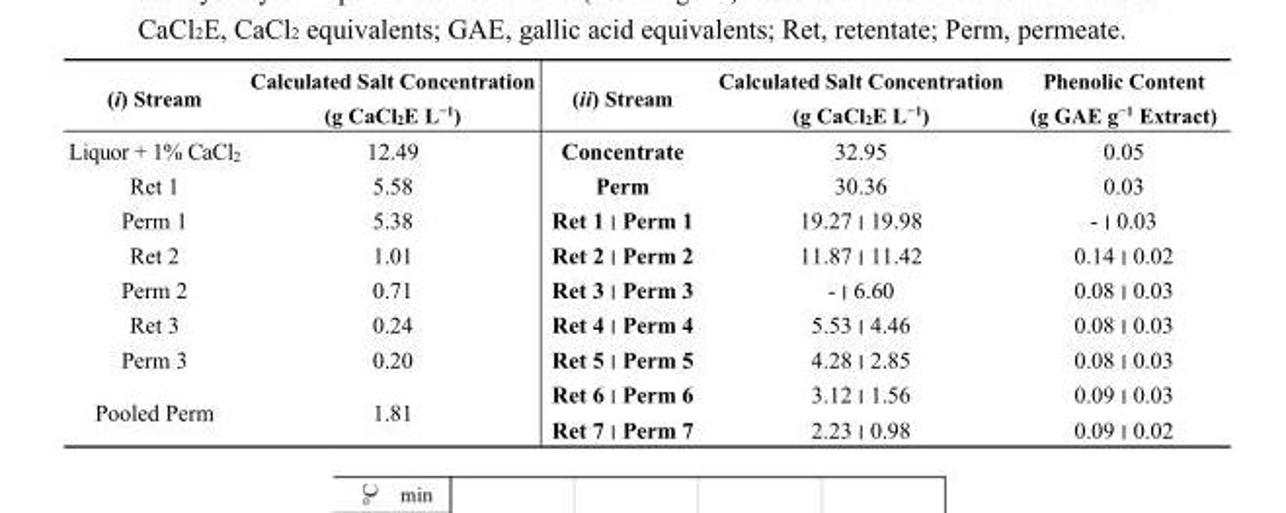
<table><thead><tr><td>(i) Stream</td><td>Calculated Salt Concentration (g CaCl<sub>2</sub>E L<sup>−1</sup>)</td><td>(ii) Stream</td><td>Calculated Salt Concentration (g CaCl<sub>2</sub>E L<sup>−1</sup>)</td><td>Phenolic Content (g GAE g<sup>−1</sup> Extract)</td></tr></thead><tbody><tr><td>Liquor + 1% CaCl<sub>2</sub></td><td>12.49</td><td>Concentrate</td><td>32.95</td><td>0.05</td></tr><tr><td>Ret 1</td><td>5.58</td><td>Perm</td><td>30.36</td><td>0.03</td></tr><tr><td>Perm 1</td><td>5.38</td><td>Ret 1 ׀ Perm 1</td><td>19.27 ׀ 19.98</td><td>- ׀ 0.03</td></tr><tr><td>Ret 2</td><td>1.01</td><td>Ret 2 ׀ Perm 2</td><td>11.87 ׀ 11.42</td><td>0.14 ׀ 0.02</td></tr><tr><td>Perm 2</td><td>0.71</td><td>Ret 3 ׀ Perm 3</td><td>- ׀ 6.60</td><td>0.08 ׀ 0.03</td></tr><tr><td>Ret 3</td><td>0.24</td><td>Ret 4 ׀ Perm 4</td><td>5.53 ׀ 4.46</td><td>0.08 ׀ 0.03</td></tr><tr><td>Perm 3</td><td>0.20</td><td>Ret 5 ׀ Perm 5</td><td>4.28 ׀ 2.85</td><td>0.08 ׀ 0.03</td></tr><tr><td rowspan="2">Pooled Perm</td><td rowspan="2">1.81</td><td>Ret 6 ׀ Perm 6</td><td>3.12 ׀ 1.56</td><td>0.09 ׀ 0.03</td></tr><tr><td>Ret 7 ׀ Perm 7</td><td>2.23 ׀ 0.98</td><td>0.09 ׀ 0.02</td></tr></tbody></table>